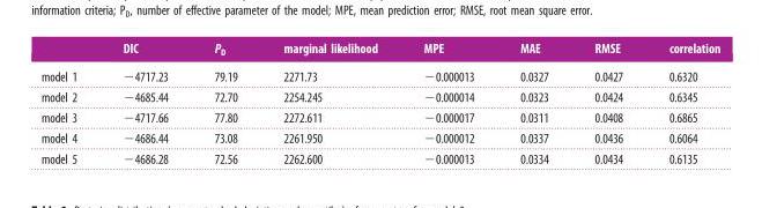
<table><thead><tr><td></td><td>DIC</td><td>P<sub>D</sub></td><td>marginal likelihood</td><td>MPE</td><td>MAE</td><td>RMSE</td><td>correlation</td></tr></thead><tbody><tr><td>model 1</td><td>−4717.23</td><td>79.19</td><td>2271.73</td><td>−0.000013</td><td>0.0327</td><td>0.0427</td><td>0.6320</td></tr><tr><td>model 2</td><td>−4685.44</td><td>72.70</td><td>2254.245</td><td>−0.000014</td><td>0.0323</td><td>0.0424</td><td>0.6345</td></tr><tr><td>model 3</td><td>−4717.66</td><td>77.80</td><td>2272.611</td><td>−0.000017</td><td>0.0311</td><td>0.0408</td><td>0.6865</td></tr><tr><td>model 4</td><td>−4686.44</td><td>73.08</td><td>2261.950</td><td>−0.000012</td><td>0.0337</td><td>0.0436</td><td>0.6064</td></tr><tr><td>model 5</td><td>−4686.28</td><td>72.56</td><td>2262.600</td><td>−0.000013</td><td>0.0334</td><td>0.0434</td><td>0.6135</td></tr></tbody></table>